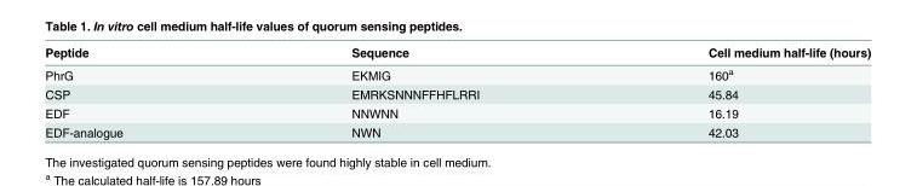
<table><thead><tr><td>Peptide</td><td>Sequence</td><td>Cell medium half-life (hours)</td></tr></thead><tbody><tr><td>PhrG</td><td>EKMIG</td><td>160<sup>a</sup></td></tr><tr><td>CSP</td><td>EMRKSNNNFFHFLRRI</td><td>45.84</td></tr><tr><td>EDF</td><td>NNWNN</td><td>16.19</td></tr><tr><td>EDF-analogue</td><td>NWN</td><td>42.03</td></tr></tbody></table>